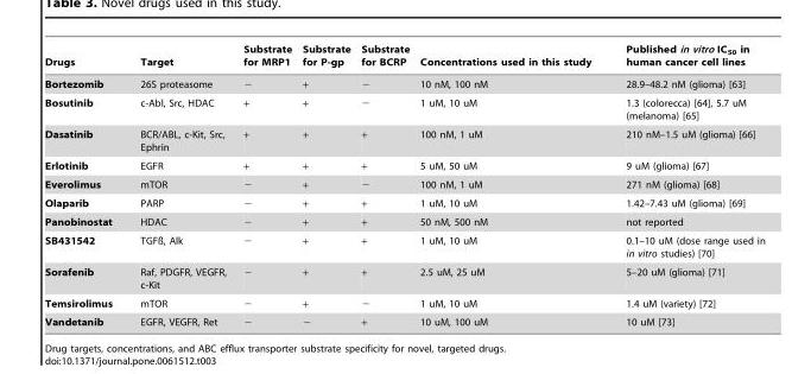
<table><thead><tr><td>Drugs</td><td>Target</td><td>Substrate for MRP1</td><td>Substrate for P-gp</td><td>Substrate for BCRP</td><td>Concentrations used in this study</td><td>Published in vitro IC<sub>50</sub> in human cancer cell lines</td></tr></thead><tbody><tr><td>Bortezomib</td><td>26S proteasome</td><td>−</td><td>+</td><td>−</td><td>10 nM, 100 nM</td><td>28.9–48.2 nM (glioma) [63]</td></tr><tr><td>Bosutinib</td><td>c-Abl, Src, HDAC</td><td>+</td><td>+</td><td>−</td><td>1 uM, 10 uM</td><td>1.3 (colorecca) [64], 5.7 uM (melanoma) [65]</td></tr><tr><td>Dasatinib</td><td>BCR/ABL, c-Kit, Src, Ephrin</td><td>+</td><td>+</td><td>+</td><td>100 nM, 1 uM</td><td>210 nM–1.5 uM (glioma) [66]</td></tr><tr><td>Erlotinib</td><td>EGFR</td><td>+</td><td>+</td><td>+</td><td>5 uM, 50 uM</td><td>9 uM (glioma) [67]</td></tr><tr><td>Everolimus</td><td>mTOR</td><td>−</td><td>+</td><td>−</td><td>100 nM, 1 uM</td><td>271 nM (glioma) [68]</td></tr><tr><td>Olaparib</td><td>PARP</td><td>−</td><td>+</td><td>+</td><td>1 uM, 10 uM</td><td>1.42–7.43 uM (glioma) [69]</td></tr><tr><td>Panobinostat</td><td>HDAC</td><td>−</td><td>+</td><td>+</td><td>50 nM, 500 nM</td><td>not reported</td></tr><tr><td>SB431542</td><td>TGFß, Alk</td><td>−</td><td>+</td><td>+</td><td>1 uM, 10 uM</td><td>0.1–10 uM (dose range used in in vitro studies) [70]</td></tr><tr><td>Sorafenib</td><td>Raf, PDGFR, VEGFR, c-Kit</td><td>−</td><td>+</td><td>+</td><td>2.5 uM, 25 uM</td><td>5–20 uM (glioma) [71]</td></tr><tr><td>Temsirolimus</td><td>mTOR</td><td>−</td><td>+</td><td>−</td><td>1 uM, 10 uM</td><td>1.4 uM (variety) [72]</td></tr><tr><td>Vandetanib</td><td>EGFR, VEGFR, Ret</td><td>−</td><td>−</td><td>+</td><td>10 uM, 100 uM</td><td>10 uM [73]</td></tr></tbody></table>